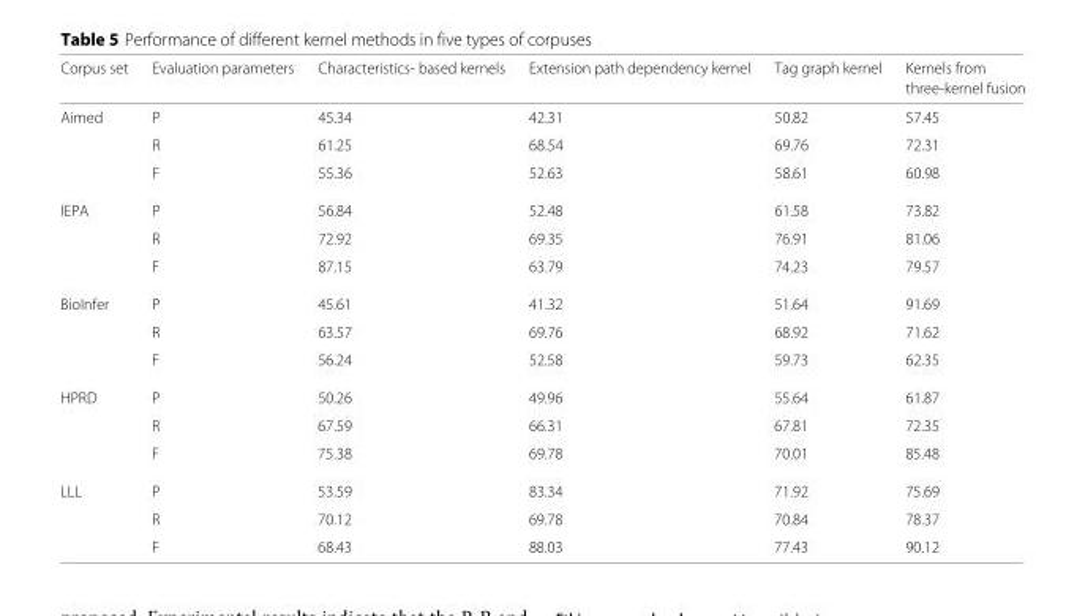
<table><thead><tr><td rowspan="2">Corpus set</td><td rowspan="2">Evaluation parameters</td><td rowspan="2">Characteristics- based kernels</td><td rowspan="2">Extension path dependency kernel</td><td rowspan="2">Tag graph kernel</td><td rowspan="2">Kernels from three-kernel fusion</td></tr><tr></tr></thead><tbody><tr><td rowspan="3">Aimed</td><td>P</td><td>45.34</td><td>42.31</td><td>50.82</td><td>57.45</td></tr><tr><td>R</td><td>61.25</td><td>68.54</td><td>69.76</td><td>72.31</td></tr><tr><td>F</td><td>55.36</td><td>52.63</td><td>58.61</td><td>60.98</td></tr><tr><td rowspan="3">IEPA</td><td>P</td><td>56.84</td><td>52.48</td><td>61.58</td><td>73.82</td></tr><tr><td>R</td><td>72.92</td><td>69.35</td><td>76.91</td><td>81.06</td></tr><tr><td>F</td><td>87.15</td><td>63.79</td><td>74.23</td><td>79.57</td></tr><tr><td rowspan="3">BioInfer</td><td>P</td><td>45.61</td><td>41.32</td><td>51.64</td><td>91.69</td></tr><tr><td>R</td><td>63.57</td><td>69.76</td><td>68.92</td><td>71.62</td></tr><tr><td>F</td><td>56.24</td><td>52.58</td><td>59.73</td><td>62.35</td></tr><tr><td rowspan="3">HPRD</td><td>P</td><td>50.26</td><td>49.96</td><td>55.64</td><td>61.87</td></tr><tr><td>R</td><td>67.59</td><td>66.31</td><td>67.81</td><td>72.35</td></tr><tr><td>F</td><td>75.38</td><td>69.78</td><td>70.01</td><td>85.48</td></tr><tr><td rowspan="3">LLL</td><td>P</td><td>53.59</td><td>83.34</td><td>71.92</td><td>75.69</td></tr><tr><td>R</td><td>70.12</td><td>69.78</td><td>70.84</td><td>78.37</td></tr><tr><td>F</td><td>68.43</td><td>88.03</td><td>77.43</td><td>90.12</td></tr></tbody></table>